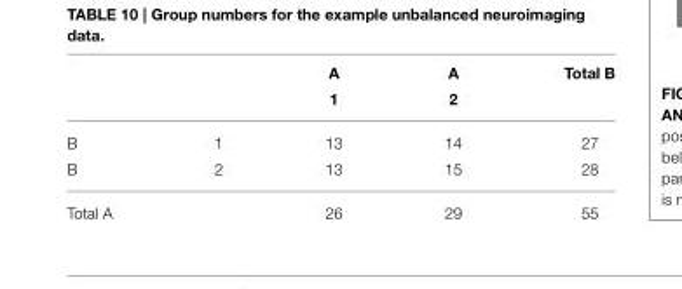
<table><thead><tr><td rowspan="2"></td><td rowspan="2"></td><td rowspan="2">A 1</td><td rowspan="2">A 2</td><td rowspan="2">Total B</td></tr><tr></tr></thead><tbody><tr><td>B</td><td>1</td><td>13</td><td>14</td><td>27</td></tr><tr><td>B</td><td>2</td><td>13</td><td>15</td><td>28</td></tr><tr><td>Total A</td><td></td><td>26</td><td>29</td><td>55</td></tr></tbody></table>